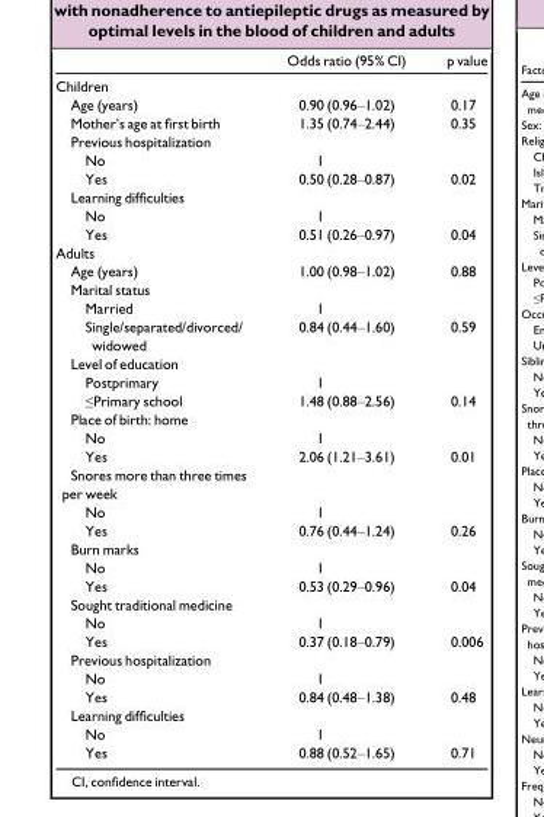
<table><thead><tr><td></td><td>Odds ratio (95% CI)</td><td>p value</td></tr></thead><tbody><tr><td colspan="3">Children</td></tr><tr><td>Age (years)</td><td>0.90 (0.96–1.02)</td><td>0.17</td></tr><tr><td>Mother’s age at first birth</td><td>1.35 (0.74–2.44)</td><td>0.35</td></tr><tr><td colspan="3">Previous hospitalization</td></tr><tr><td>No</td><td>1</td><td></td></tr><tr><td>Yes</td><td>0.50 (0.28–0.87)</td><td>0.02</td></tr><tr><td colspan="3">Learning difficulties</td></tr><tr><td>No</td><td>1</td><td></td></tr><tr><td>Yes</td><td>0.51 (0.26–0.97)</td><td>0.04</td></tr><tr><td colspan="3">Adults</td></tr><tr><td>Age (years)</td><td>1.00 (0.98–1.02)</td><td>0.88</td></tr><tr><td colspan="3">Marital status</td></tr><tr><td>Married</td><td>1</td><td></td></tr><tr><td>Single/separated/divorced/ widowed</td><td>0.84 (0.44–1.60)</td><td>0.59</td></tr><tr><td colspan="3">Level of education</td></tr><tr><td>Postprimary</td><td>1</td><td></td></tr><tr><td>≤Primary school</td><td>1.48 (0.88–2.56)</td><td>0.14</td></tr><tr><td colspan="3">Place of birth: home</td></tr><tr><td>No</td><td>1</td><td></td></tr><tr><td>Yes</td><td>2.06 (1.21–3.61)</td><td>0.01</td></tr><tr><td colspan="3">Snores more than three times per week</td></tr><tr><td>No</td><td>1</td><td></td></tr><tr><td>Yes</td><td>0.76 (0.44–1.24)</td><td>0.26</td></tr><tr><td colspan="3">Burn marks</td></tr><tr><td>No</td><td>1</td><td></td></tr><tr><td>Yes</td><td>0.53 (0.29–0.96)</td><td>0.04</td></tr><tr><td colspan="3">Sought traditional medicine</td></tr><tr><td>No</td><td>1</td><td></td></tr><tr><td>Yes</td><td>0.37 (0.18–0.79)</td><td>0.006</td></tr><tr><td colspan="3">Previous hospitalization</td></tr><tr><td>No</td><td>1</td><td></td></tr><tr><td>Yes</td><td>0.84 (0.48–1.38)</td><td>0.48</td></tr><tr><td colspan="3">Learning difficulties</td></tr><tr><td>No</td><td>1</td><td></td></tr><tr><td>Yes</td><td>0.88 (0.52–1.65)</td><td>0.71</td></tr></tbody></table>